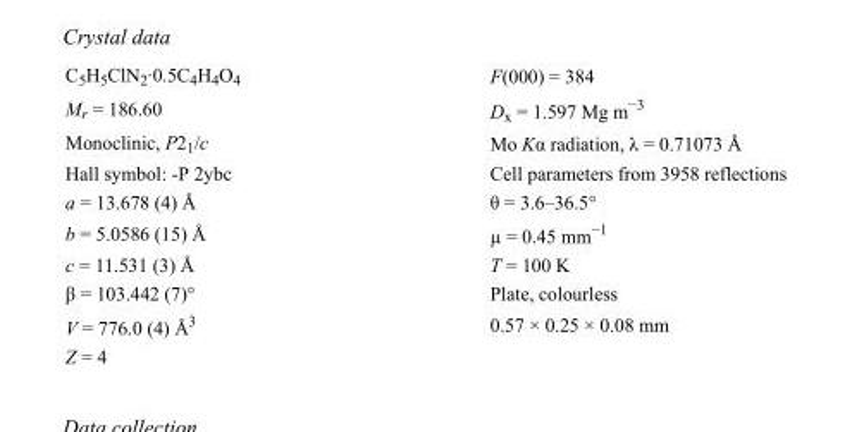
<table><tbody><tr><td>C<sub>5</sub>H<sub>5</sub>ClN<sub>2</sub>·0.5C<sub>4</sub>H<sub>4</sub>O<sub>4</sub></td><td>F(000) = 384</td></tr><tr><td>M<sub>r</sub> = 186.60</td><td>D<sub>x</sub> = 1.597 Mg m<sup>−3</sup></td></tr><tr><td>Monoclinic, P2<sub>1</sub>/c</td><td>Mo Kα radiation, λ = 0.71073 Å</td></tr><tr><td>Hall symbol: -P 2ybc</td><td>Cell parameters from 3958 reflections</td></tr><tr><td>a = 13.678 (4) Å</td><td>θ = 3.6–36.5°</td></tr><tr><td>b = 5.0586 (15) Å</td><td>µ = 0.45 mm<sup>−1</sup></td></tr><tr><td>c = 11.531 (3) Å</td><td>T = 100 K</td></tr><tr><td>β = 103.442 (7)°</td><td>Plate, colourless</td></tr><tr><td>V = 776.0 (4) Å<sup>3</sup></td><td>0.57 × 0.25 × 0.08 mm</td></tr><tr><td>Z = 4</td><td></td></tr></tbody></table>